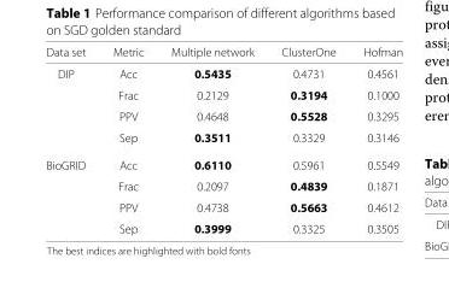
<table><thead><tr><td>Data set</td><td>Metric</td><td>Multiple network</td><td>ClusterOne</td><td>Hofman</td></tr></thead><tbody><tr><td rowspan="4">DIP</td><td>Acc</td><td>0.5435</td><td>0.4731</td><td>0.4561</td></tr><tr><td>Frac</td><td>0.2129</td><td>0.3194</td><td>0.1000</td></tr><tr><td>PPV</td><td>0.4648</td><td>0.5528</td><td>0.3295</td></tr><tr><td>Sep</td><td>0.3511</td><td>0.3329</td><td>0.3146</td></tr><tr><td rowspan="4">BioGRID</td><td>Acc</td><td>0.6110</td><td>0.5961</td><td>0.5549</td></tr><tr><td>Frac</td><td>0.2097</td><td>0.4839</td><td>0.1871</td></tr><tr><td>PPV</td><td>0.4738</td><td>0.5663</td><td>0.4612</td></tr><tr><td>Sep</td><td>0.3999</td><td>0.3325</td><td>0.3505</td></tr></tbody></table>